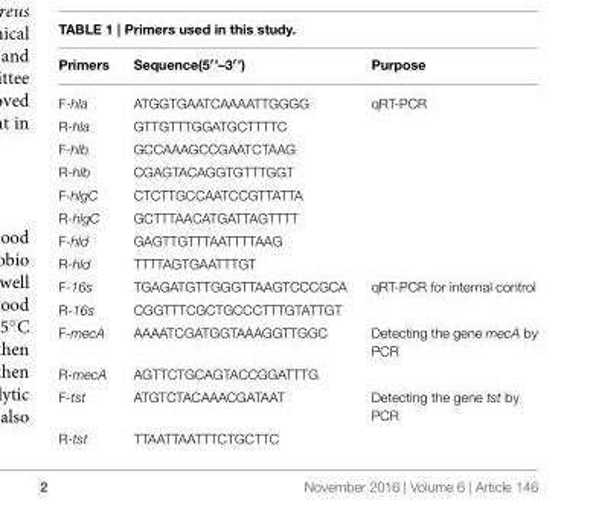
<table><thead><tr><td>Primers</td><td>Sequence(5′’–3′’)</td><td>Purpose</td></tr></thead><tbody><tr><td>F-hla</td><td>ATGGTGAATCAAAATTGGGG</td><td>qRT-PCR</td></tr><tr><td>R-hla</td><td>GTTGTTTGGATGCTTTTC</td><td></td></tr><tr><td>F-hlb</td><td>GCCAAAGCCGAATCTAAG</td><td></td></tr><tr><td>R-hlb</td><td>CGAGTACAGGTGTTTGGT</td><td></td></tr><tr><td>F-hlgC</td><td>CTCTTGCCAATCCGTTATTA</td><td></td></tr><tr><td>R-hlgC</td><td>GCTTTAACATGATTAGTTTT</td><td></td></tr><tr><td>F-hld</td><td>GAGTTGTTTAATTTTAAG</td><td></td></tr><tr><td>R-hld</td><td>TTTTAGTGAATTTGT</td><td></td></tr><tr><td>F-16s</td><td>TGAGATGTTGGGTTAAGTCCCGCA</td><td>qRT-PCR for internal control</td></tr><tr><td>R-16s</td><td>CGGTTTCGCTGCCCTTTGTATTGT</td><td></td></tr><tr><td>F-mecA</td><td>AAAATCGATGGTAAAGGTTGGC</td><td>Detecting the gene mecA by PCR</td></tr><tr><td>R-mecA</td><td>AGTTCTGCAGTACCGGATTTG</td><td></td></tr><tr><td>F-tst</td><td>ATGTCTACAAACGATAAT</td><td>Detecting the gene tst by PCR</td></tr><tr><td>R-tst</td><td>TTAATTAATTTCTGCTTC</td><td></td></tr></tbody></table>